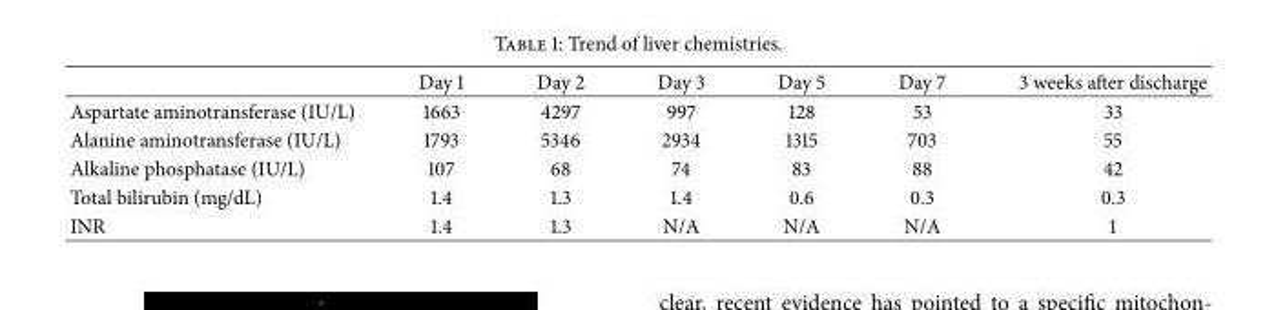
<table><thead><tr><td></td><td>Day 1</td><td>Day 2</td><td>Day 3</td><td>Day 5</td><td>Day 7</td><td>3 weeks after discharge</td></tr></thead><tbody><tr><td>Aspartate aminotransferase (IU/L)</td><td>1663</td><td>4297</td><td>997</td><td>128</td><td>53</td><td>33</td></tr><tr><td>Alanine aminotransferase (IU/L)</td><td>1793</td><td>5346</td><td>2934</td><td>1315</td><td>703</td><td>55</td></tr><tr><td>Alkaline phosphatase (IU/L)</td><td>107</td><td>68</td><td>74</td><td>83</td><td>88</td><td>42</td></tr><tr><td>Total bilirubin (mg/dL)</td><td>1.4</td><td>1.3</td><td>1.4</td><td>0.6</td><td>0.3</td><td>0.3</td></tr><tr><td>INR</td><td>1.4</td><td>1.3</td><td>N/A</td><td>N/A</td><td>N/A</td><td>1</td></tr></tbody></table>